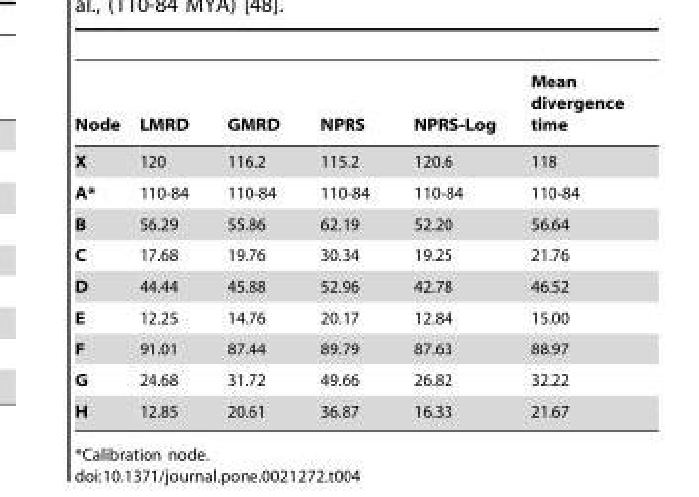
<table><thead><tr><td>Node</td><td>LMRD</td><td>GMRD</td><td>NPRS</td><td>NPRS-Log</td><td>Mean divergence time</td></tr></thead><tbody><tr><td>X</td><td>120</td><td>116.2</td><td>115.2</td><td>120.6</td><td>118</td></tr><tr><td>A*</td><td>110-84</td><td>110-84</td><td>110-84</td><td>110-84</td><td>110-84</td></tr><tr><td>B</td><td>56.29</td><td>55.86</td><td>62.19</td><td>52.20</td><td>56.64</td></tr><tr><td>C</td><td>17.68</td><td>19.76</td><td>30.34</td><td>19.25</td><td>21.76</td></tr><tr><td>D</td><td>44.44</td><td>45.88</td><td>52.96</td><td>42.78</td><td>46.52</td></tr><tr><td>E</td><td>12.25</td><td>14.76</td><td>20.17</td><td>12.84</td><td>15.00</td></tr><tr><td>F</td><td>91.01</td><td>87.44</td><td>89.79</td><td>87.63</td><td>88.97</td></tr><tr><td>G</td><td>24.68</td><td>31.72</td><td>49.66</td><td>26.82</td><td>32.22</td></tr><tr><td>H</td><td>12.85</td><td>20.61</td><td>36.87</td><td>16.33</td><td>21.67</td></tr></tbody></table>